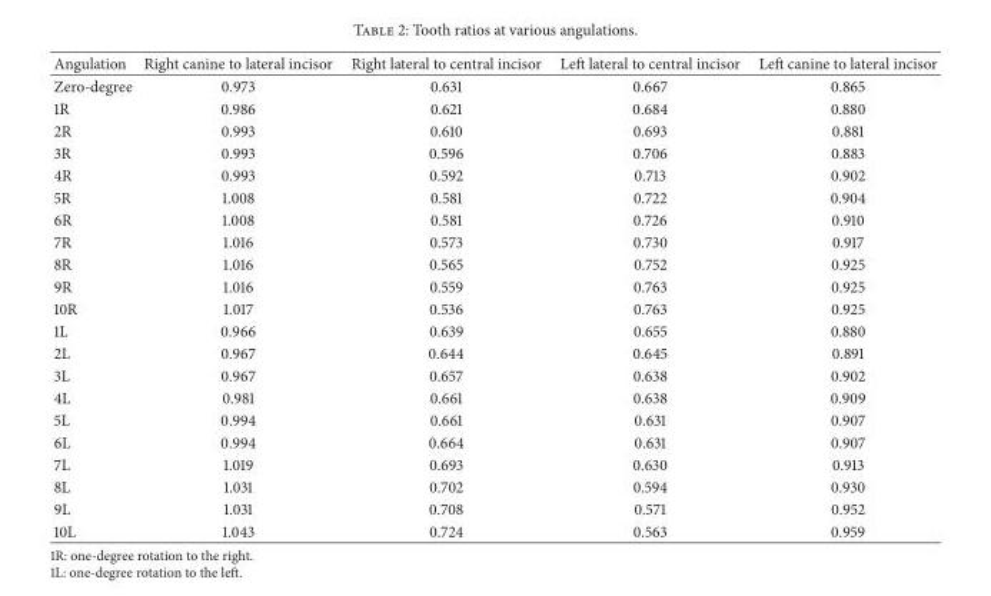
<table><thead><tr><td>Angulation</td><td>Right canine to lateral incisor</td><td>Right lateral to central incisor</td><td>Left lateral to central incisor</td><td>Left canine to lateral incisor</td></tr></thead><tbody><tr><td>Zero-degree</td><td>0.973</td><td>0.631</td><td>0.667</td><td>0.865</td></tr><tr><td>1R</td><td>0.986</td><td>0.621</td><td>0.684</td><td>0.880</td></tr><tr><td>2R</td><td>0.993</td><td>0.610</td><td>0.693</td><td>0.881</td></tr><tr><td>3R</td><td>0.993</td><td>0.596</td><td>0.706</td><td>0.883</td></tr><tr><td>4R</td><td>0.993</td><td>0.592</td><td>0.713</td><td>0.902</td></tr><tr><td>5R</td><td>1.008</td><td>0.581</td><td>0.722</td><td>0.904</td></tr><tr><td>6R</td><td>1.008</td><td>0.581</td><td>0.726</td><td>0.910</td></tr><tr><td>7R</td><td>1.016</td><td>0.573</td><td>0.730</td><td>0.917</td></tr><tr><td>8R</td><td>1.016</td><td>0.565</td><td>0.752</td><td>0.925</td></tr><tr><td>9R</td><td>1.016</td><td>0.559</td><td>0.763</td><td>0.925</td></tr><tr><td>10R</td><td>1.017</td><td>0.536</td><td>0.763</td><td>0.925</td></tr><tr><td>1L</td><td>0.966</td><td>0.639</td><td>0.655</td><td>0.880</td></tr><tr><td>2L</td><td>0.967</td><td>0.644</td><td>0.645</td><td>0.891</td></tr><tr><td>3L</td><td>0.967</td><td>0.657</td><td>0.638</td><td>0.902</td></tr><tr><td>4L</td><td>0.981</td><td>0.661</td><td>0.638</td><td>0.909</td></tr><tr><td>5L</td><td>0.994</td><td>0.661</td><td>0.631</td><td>0.907</td></tr><tr><td>6L</td><td>0.994</td><td>0.664</td><td>0.631</td><td>0.907</td></tr><tr><td>7L</td><td>1.019</td><td>0.693</td><td>0.630</td><td>0.913</td></tr><tr><td>8L</td><td>1.031</td><td>0.702</td><td>0.594</td><td>0.930</td></tr><tr><td>9L</td><td>1.031</td><td>0.708</td><td>0.571</td><td>0.952</td></tr><tr><td>10L</td><td>1.043</td><td>0.724</td><td>0.563</td><td>0.959</td></tr></tbody></table>